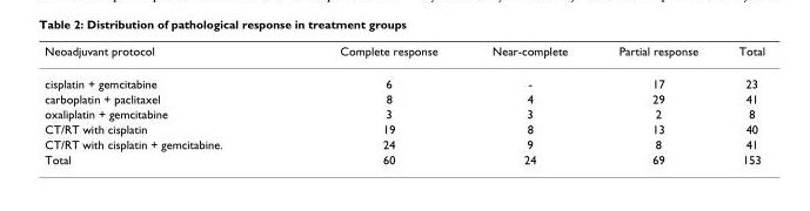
<table><thead><tr><td>Neoadjuvant protocol</td><td>Complete response</td><td>Near-complete</td><td>Partial response</td><td>Total</td></tr></thead><tbody><tr><td>cisplatin + gemcitabine</td><td>6</td><td>-</td><td>17</td><td>23</td></tr><tr><td>carboplatin + paclitaxel</td><td>8</td><td>4</td><td>29</td><td>41</td></tr><tr><td>oxaliplatin + gemcitabine</td><td>3</td><td>3</td><td>2</td><td>8</td></tr><tr><td>CT/RT with cisplatin</td><td>19</td><td>8</td><td>13</td><td>40</td></tr><tr><td>CT/RT with cisplatin + gemcitabine.</td><td>24</td><td>9</td><td>8</td><td>41</td></tr><tr><td>Total</td><td>60</td><td>24</td><td>69</td><td>153</td></tr></tbody></table>